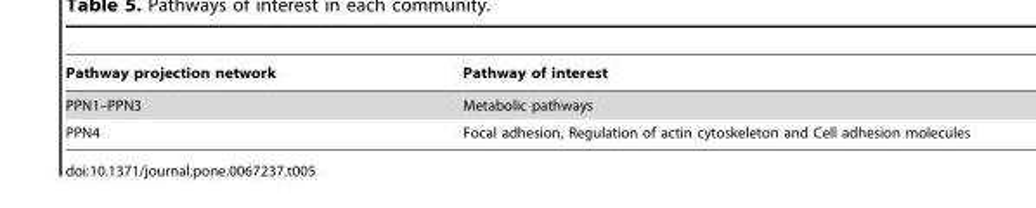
<table><thead><tr><td>Pathway projection network</td><td>Pathway of interest</td></tr></thead><tbody><tr><td>PPN1–PPN3</td><td>Metabolic pathways</td></tr><tr><td>PPN4</td><td>Focal adhesion, Regulation of actin cytoskeleton and Cell adhesion molecules</td></tr></tbody></table>